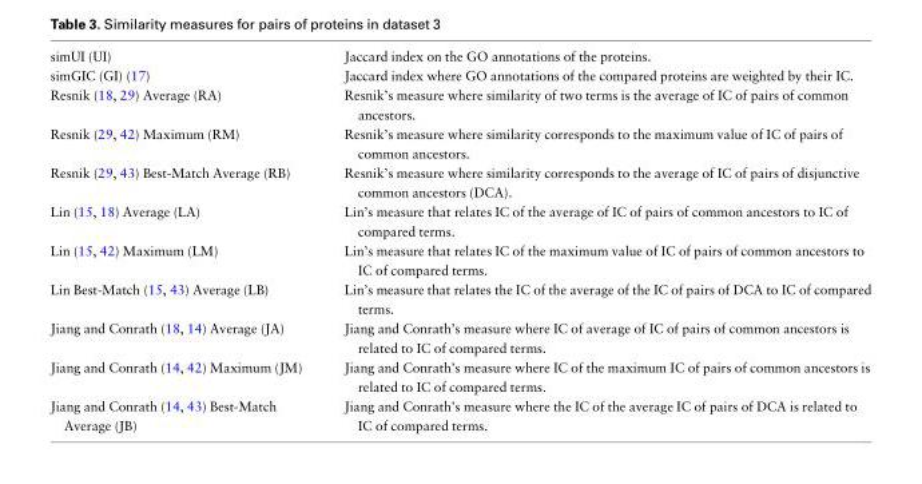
<table><tbody><tr><td>simUI (UI)</td><td>Jaccard index on the GO annotations of the proteins.</td></tr><tr><td>simGIC (GI) (17)</td><td>Jaccard index where GO annotations of the compared proteins are weighted by their IC.</td></tr><tr><td>Resnik (18, 29) Average (RA)</td><td>Resnik’s measure where similarity of two terms is the average of IC of pairs of common ancestors.</td></tr><tr><td>Resnik (29, 42) Maximum (RM)</td><td>Resnik’s measure where similarity corresponds to the maximum value of IC of pairs of common ancestors.</td></tr><tr><td>Resnik (29, 43) Best-Match Average (RB)</td><td>Resnik’s measure where similarity corresponds to the average of IC of pairs of disjunctive common ancestors (DCA).</td></tr><tr><td>Lin (15, 18) Average (LA)</td><td>Lin’s measure that relates IC of the average of IC of pairs of common ancestors to IC of compared terms.</td></tr><tr><td>Lin (15, 42) Maximum (LM)</td><td>Lin’s measure that relates IC of the maximum value of IC of pairs of common ancestors to IC of compared terms.</td></tr><tr><td>Lin Best-Match (15, 43) Average (LB)</td><td>Lin’s measure that relates the IC of the average of the IC of pairs of DCA to IC of compared terms.</td></tr><tr><td>Jiang and Conrath (18, 14) Average (JA)</td><td>Jiang and Conrath’s measure where IC of average of IC of pairs of common ancestors is related to IC of compared terms.</td></tr><tr><td>Jiang and Conrath (14, 42) Maximum (JM)</td><td>Jiang and Conrath’s measure where IC of the maximum IC of pairs of common ancestors is related to IC of compared terms.</td></tr><tr><td>Jiang and Conrath (14, 43) Best-Match Average (JB)</td><td>Jiang and Conrath’s measure where the IC of the average IC of pairs of DCA is related to IC of compared terms.</td></tr></tbody></table>